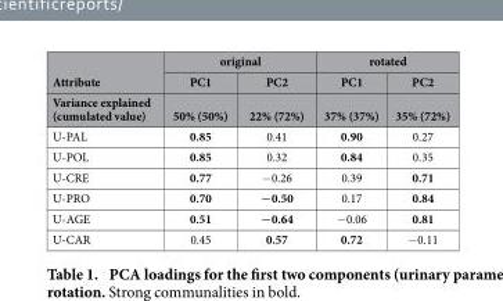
<table><thead><tr><td rowspan="3">Attribute Variance explained (cumulated value)</td><td colspan="2">original</td><td colspan="2">rotated</td></tr><tr><td rowspan="2">PC1 50% (50%)</td><td rowspan="2">PC2 22% (72%)</td><td rowspan="2">PC1 37% (37%)</td><td rowspan="2">PC2 35% (72%)</td></tr><tr></tr></thead><tbody><tr><td>U-PAL</td><td>0.85</td><td>0.41</td><td>0.90</td><td>0.27</td></tr><tr><td>U-POL</td><td>0.85</td><td>0.32</td><td>0.84</td><td>0.35</td></tr><tr><td>U-CRE</td><td>0.77</td><td>− 0.26</td><td>0.39</td><td>0.71</td></tr><tr><td>U-PRO</td><td>0.70</td><td>−0.50</td><td>0.17</td><td>0.84</td></tr><tr><td>U-AGE</td><td>0.51</td><td>−0.64</td><td>− 0.06</td><td>0.81</td></tr><tr><td>U-CAR</td><td>0.45</td><td>0.57</td><td>0.72</td><td>− 0.11</td></tr></tbody></table>